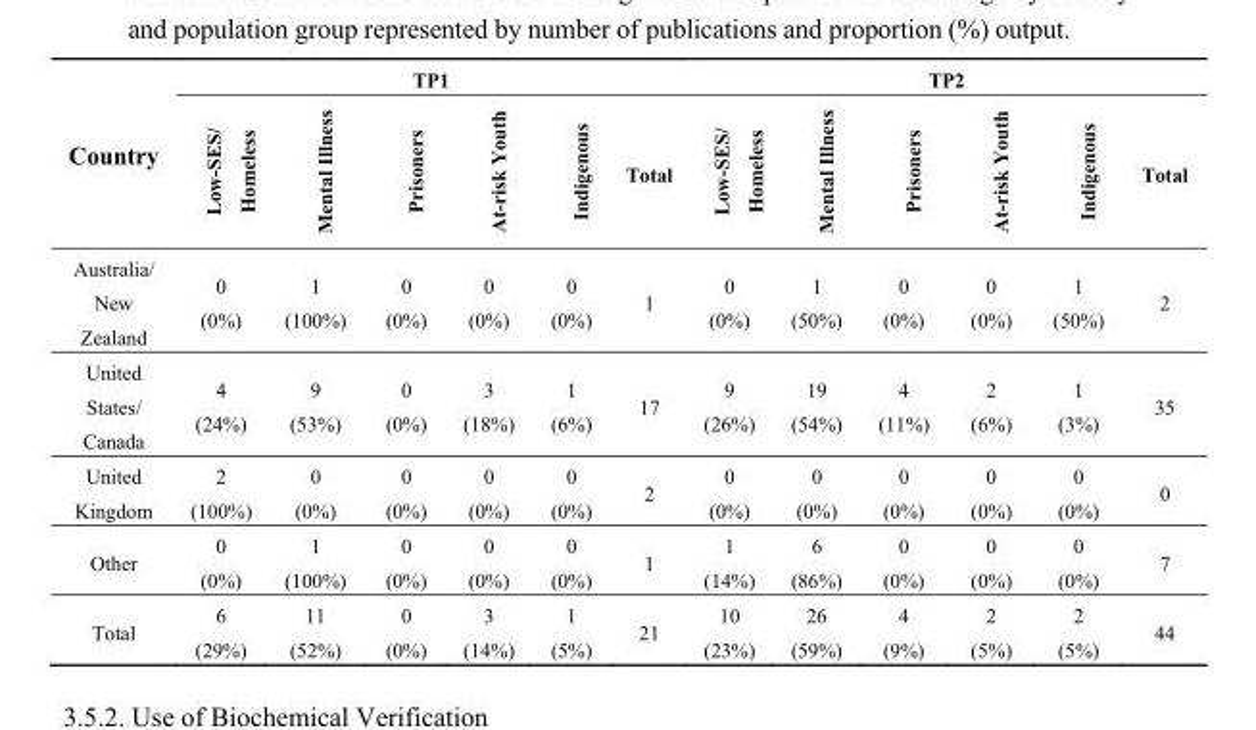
<table><thead><tr><td rowspan="2">Country</td><td colspan="6">TP1</td><td colspan="6">TP2</td></tr><tr><td>Low-SES/ Homeless</td><td>Mental Illness</td><td>Prisoners</td><td>At-risk Youth</td><td>Indigenous</td><td>Total</td><td>Low-SES/ Homeless</td><td>Mental Illness</td><td>Prisoners</td><td>At-risk Youth</td><td>Indigenous</td><td>Total</td></tr></thead><tbody><tr><td>Australia/ New Zealand</td><td>0 (0%)</td><td>1 (100%)</td><td>0 (0%)</td><td>0 (0%)</td><td>0 (0%)</td><td>1</td><td>0 (0%)</td><td>1 (50%)</td><td>0 (0%)</td><td>0 (0%)</td><td>1 (50%)</td><td>2</td></tr><tr><td>United States/ Canada</td><td>4 (24%)</td><td>9 (53%)</td><td>0 (0%)</td><td>3 (18%)</td><td>1 (6%)</td><td>17</td><td>9 (26%)</td><td>19 (54%)</td><td>4 (11%)</td><td>2 (6%)</td><td>1 (3%)</td><td>35</td></tr><tr><td>United Kingdom</td><td>2 (100%)</td><td>0 (0%)</td><td>0 (0%)</td><td>0 (0%)</td><td>0 (0%)</td><td>2</td><td>0 (0%)</td><td>0 (0%)</td><td>0 (0%)</td><td>0 (0%)</td><td>0 (0%)</td><td>0</td></tr><tr><td>Other</td><td>0 (0%)</td><td>1 (100%)</td><td>0 (0%)</td><td>0 (0%)</td><td>0 (0%)</td><td>1</td><td>1 (14%)</td><td>6 (86%)</td><td>0 (0%)</td><td>0 (0%)</td><td>0 (0%)</td><td>7</td></tr><tr><td>Total</td><td>6 (29%)</td><td>11 (52%)</td><td>0 (0%)</td><td>3 (14%)</td><td>1 (5%)</td><td>21</td><td>10 (23%)</td><td>26 (59%)</td><td>4 (9%)</td><td>2 (5%)</td><td>2 (5%)</td><td>44</td></tr></tbody></table>